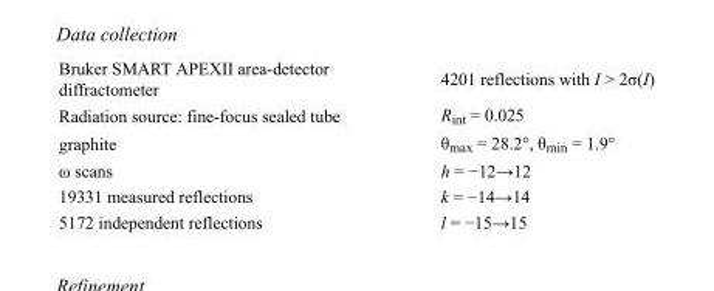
<table><tbody><tr><td>Bruker SMART APEXII area-detector diffractometer</td><td>4201 reflections with I &gt; 2σ(I)</td></tr><tr><td>Radiation source: fine-focus sealed tube</td><td>R<sub>int</sub> = 0.025</td></tr><tr><td>graphite</td><td>θ<sub>max</sub> = 28.2°, θ<sub>min</sub> = 1.9°</td></tr><tr><td>ω scans</td><td>h = −12→12</td></tr><tr><td>19331 measured reflections</td><td>k = −14→14</td></tr><tr><td>5172 independent reflections</td><td>l = −15→15</td></tr></tbody></table>